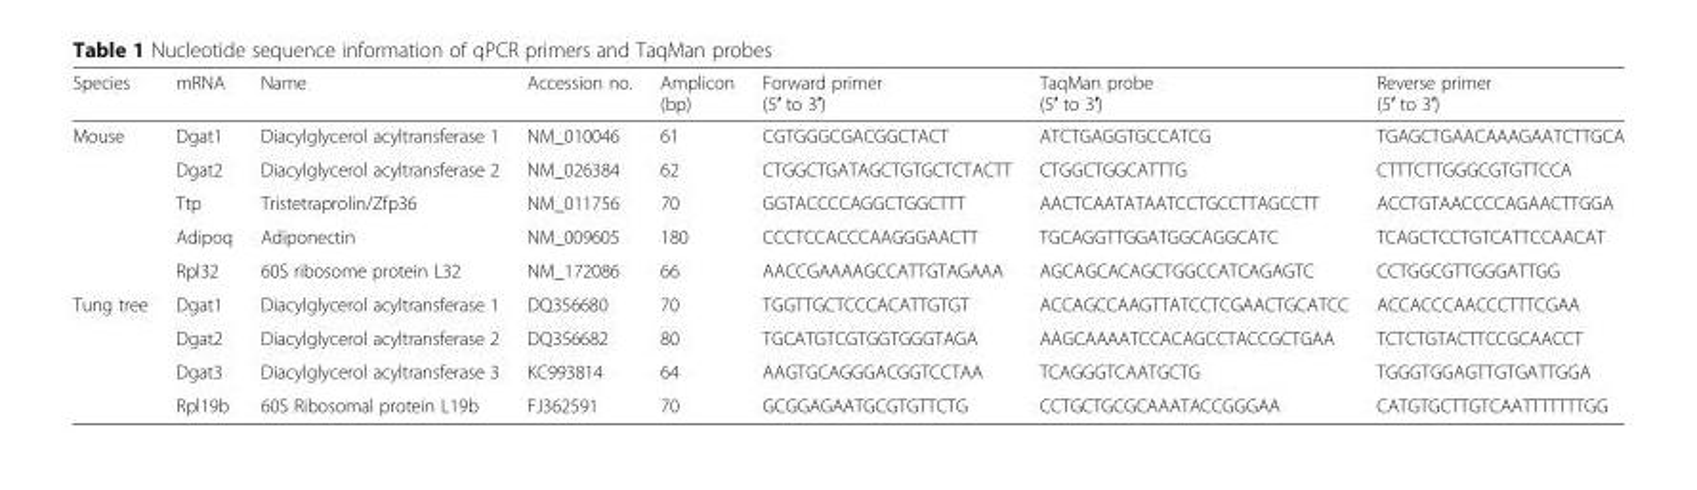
<table><thead><tr><td>Species</td><td>mRNA</td><td>Name</td><td>Accession no.</td><td>Amplicon (bp)</td><td>Forward primer (5′ to 3′)</td><td>TaqMan probe (5′ to 3′)</td><td>Reverse primer (5′ to 3′)</td></tr></thead><tbody><tr><td rowspan="5">Mouse</td><td>Dgat1</td><td>Diacylglycerol acyltransferase 1</td><td>NM_010046</td><td>61</td><td>CGTGGGCGACGGCTACT</td><td>ATCTGAGGTGCCATCG</td><td>TGAGCTGAACAAAGAATCTTGCA</td></tr><tr><td>Dgat2</td><td>Diacylglycerol acyltransferase 2</td><td>NM_026384</td><td>62</td><td>CTGGCTGATAGCTGTGCTCTACTT</td><td>CTGGCTGGCATTTG</td><td>CTTTCTTGGGCGTGTTCCA</td></tr><tr><td>Ttp</td><td>Tristetraprolin/Zfp36</td><td>NM_011756</td><td>70</td><td>GGTACCCCAGGCTGGCTTT</td><td>AACTCAATATAATCCTGCCTTAGCCTT</td><td>ACCTGTAACCCCAGAACTTGGA</td></tr><tr><td>Adipoq</td><td>Adiponectin</td><td>NM_009605</td><td>180</td><td>CCCTCCACCCAAGGGAACTT</td><td>TGCAGGTTGGATGGCAGGCATC</td><td>TCAGCTCCTGTCATTCCAACAT</td></tr><tr><td>Rpl32</td><td>60S ribosome protein L32</td><td>NM_172086</td><td>66</td><td>AACCGAAAAGCCATTGTAGAAA</td><td>AGCAGCACAGCTGGCCATCAGAGTC</td><td>CCTGGCGTTGGGATTGG</td></tr><tr><td rowspan="4">Tung tree</td><td>Dgat1</td><td>Diacylglycerol acyltransferase 1</td><td>DQ356680</td><td>70</td><td>TGGTTGCTCCCACATTGTGT</td><td>ACCAGCCAAGTTATCCTCGAACTGCATCC</td><td>ACCACCCAACCCTTTCGAA</td></tr><tr><td>Dgat2</td><td>Diacylglycerol acyltransferase 2</td><td>DQ356682</td><td>80</td><td>TGCATGTCGTGGTGGGTAGA</td><td>AAGCAAAATCCACAGCCTACCGCTGAA</td><td>TCTCTGTACTTCCGCAACCT</td></tr><tr><td>Dgat3</td><td>Diacylglycerol acyltransferase 3</td><td>KC993814</td><td>64</td><td>AAGTGCAGGGACGGTCCTAA</td><td>TCAGGGTCAATGCTG</td><td>TGGGTGGAGTTGTGATTGGA</td></tr><tr><td>Rpl19b</td><td>60S Ribosomal protein L19b</td><td>FJ362591</td><td>70</td><td>GCGGAGAATGCGTGTTCTG</td><td>CCTGCTGCGCAAATACCGGGAA</td><td>CATGTGCTTGTCAATTTTTTTGG</td></tr></tbody></table>